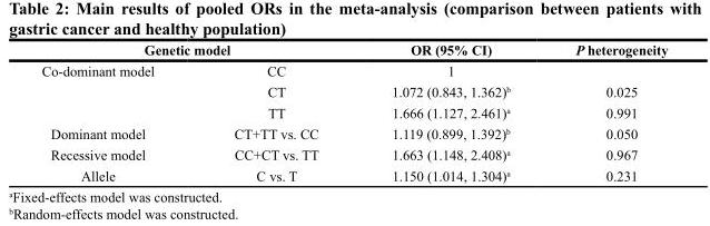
<table><thead><tr><td colspan="2">Genetic model</td><td rowspan="2">OR (95% CI) 1</td><td rowspan="2">P heterogeneity</td></tr><tr><td>Co-dominant model</td><td>CC</td></tr></thead><tbody><tr><td></td><td>CT</td><td>1.072 (0.843, 1.362)<sup>b</sup></td><td>0.025</td></tr><tr><td></td><td>TT</td><td>1.666 (1.127, 2.461)<sup>a</sup></td><td>0.991</td></tr><tr><td>Dominant model</td><td>CT+TT vs. CC</td><td>1.119 (0.899, 1.392)<sup>b</sup></td><td>0.050</td></tr><tr><td>Recessive model</td><td>CC+CT vs. TT</td><td>1.663 (1.148, 2.408)<sup>a</sup></td><td>0.967</td></tr><tr><td>Allele</td><td>C vs. T</td><td>1.150 (1.014, 1.304)<sup>a</sup></td><td>0.231</td></tr></tbody></table>